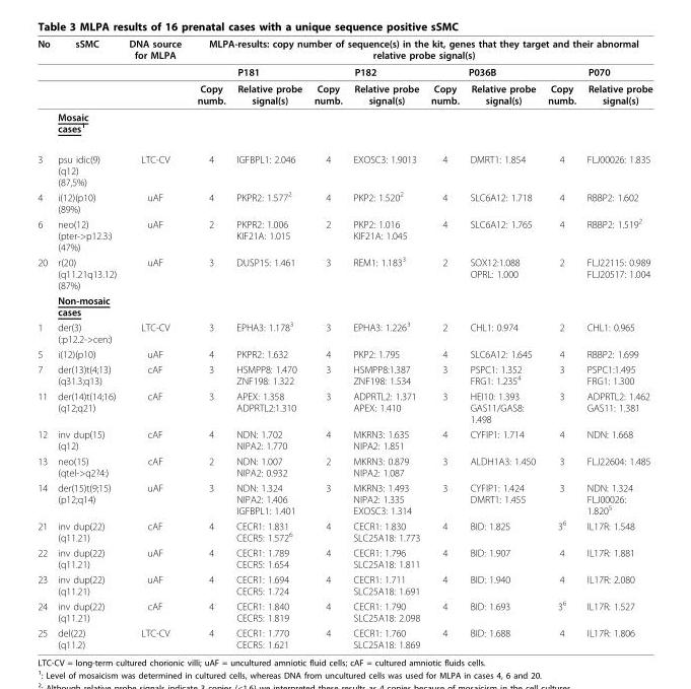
<table><thead><tr><td rowspan="3">No</td><td rowspan="3">sSMC</td><td rowspan="3">DNA source for MLPA</td><td colspan="8">MLPA-results: copy number of sequence(s) in the kit, genes that they target and their abnormal relative probe signal(s)</td></tr><tr><td colspan="2">P181</td><td colspan="2">P182</td><td colspan="2">P036B</td><td colspan="2">P070</td></tr><tr><td>Copy numb.</td><td>Relative probe signal(s)</td><td>Copy numb.</td><td>Relative probe signal(s)</td><td>Copy numb.</td><td>Relative probe signal(s)</td><td>Copy numb.</td><td>Relative probe signal(s)</td></tr></thead><tbody><tr><td></td><td>Mosaic cases<sup>1</sup></td><td></td><td></td><td></td><td></td><td></td><td></td><td></td><td></td><td></td></tr><tr><td>3</td><td>psu idic(9) (q12) (87,5%)</td><td>LTC-CV</td><td>4</td><td>IGFBPL1: 2.046</td><td>4</td><td>EXOSC3: 1.9013</td><td>4</td><td>DMRT1: 1.854</td><td>4</td><td>FLJ00026: 1.835</td></tr><tr><td>4</td><td>i(12)(p10) (89%)</td><td>uAF</td><td>4</td><td>PKPR2: 1.577<sup>2</sup></td><td>4</td><td>PKP2: 1.520<sup>2</sup></td><td>4</td><td>SLC6A12: 1.718</td><td>4</td><td>RBBP2: 1.602</td></tr><tr><td>6</td><td>neo(12) (pter-&gt;p12.3:) (47%)</td><td>uAF</td><td>2</td><td>PKPR2: 1.006 KIF21A: 1.015</td><td>2</td><td>PKP2: 1.016 KIF21A: 1.045</td><td>4</td><td>SLC6A12: 1.765</td><td>4</td><td>RBBP2: 1.519<sup>2</sup></td></tr><tr><td rowspan="2">20</td><td>r(20) (q11.21q13.12) (87%)</td><td>uAF</td><td>3</td><td>DUSP15: 1.461</td><td>3</td><td>REM1: 1.183<sup>3</sup></td><td>2</td><td>SOX12:1.088 OPRL: 1.000</td><td>2</td><td>FLJ22115: 0.989 FLJ20517: 1.004</td></tr><tr><td>Non-mosaic cases</td><td></td><td></td><td></td><td></td><td></td><td></td><td></td><td></td><td></td></tr><tr><td>1</td><td>der(3) (:p12.2-&gt;cen:)</td><td>LTC-CV</td><td>3</td><td>EPHA3: 1.178<sup>3</sup></td><td>3</td><td>EPHA3: 1.226<sup>3</sup></td><td>2</td><td>CHL1: 0.974</td><td>2</td><td>CHL1: 0.965</td></tr><tr><td>5</td><td>i(12)(p10)</td><td>uAF</td><td>4</td><td>PKPR2: 1.632</td><td>4</td><td>PKP2: 1.795</td><td>4</td><td>SLC6A12: 1.645</td><td>4</td><td>RBBP2: 1.699</td></tr><tr><td>7</td><td>der(13)t(4;13) (q31.3;q13)</td><td>cAF</td><td>3</td><td>HSMPP8: 1.470 ZNF198: 1.322</td><td>3</td><td>HSMPP8:1.387 ZNF198: 1.534</td><td>3</td><td>PSPC1: 1.352 FRG1: 1.235<sup>4</sup></td><td>3</td><td>PSPC1:1.495 FRG1: 1.300</td></tr><tr><td>11</td><td>der(14)t(14;16) (q12;q21)</td><td>cAF</td><td>3</td><td>APEX: 1.358 ADPRTL2:1.310</td><td>3</td><td>ADPRTL2: 1.371 APEX: 1.410</td><td>3</td><td>HEI10: 1.393 GAS11/GAS8: 1.498</td><td>3</td><td>ADPRTL2: 1.462 GAS11: 1.381</td></tr><tr><td>12</td><td>inv dup(15) (q12)</td><td>cAF</td><td>4</td><td>NDN: 1.702 NIPA2: 1.770</td><td>4</td><td>MKRN3: 1.635 NIPA2: 1.851</td><td>4</td><td>CYFIP1: 1.714</td><td>4</td><td>NDN: 1.668</td></tr><tr><td>13</td><td>neo(15) (qtel-&gt;q2?4:)</td><td>cAF</td><td>2</td><td>NDN: 1.007 NIPA2: 0.932</td><td>2</td><td>MKRN3: 0.879 NIPA2: 1.087</td><td>3</td><td>ALDH1A3: 1.450</td><td>3</td><td>FLJ22604: 1.485</td></tr><tr><td>14</td><td>der(15)t(9;15) (p12;q14)</td><td>uAF</td><td>3</td><td>NDN: 1.324 NIPA2: 1.406 IGFBPL1: 1.401</td><td>3</td><td>MKRN3: 1.493 NIPA2: 1.335 EXOSC3: 1.314</td><td>3</td><td>CYFIP1: 1.424 DMRT1: 1.455</td><td>3</td><td>NDN: 1.324 FLJ00026: 1.820<sup>5</sup></td></tr><tr><td>21</td><td>inv dup(22) (q11.21)</td><td>cAF</td><td>4</td><td>CECR1: 1.831 CECR5: 1.572<sup>6</sup></td><td>4</td><td>CECR1: 1.830 SLC25A18: 1.773</td><td>4</td><td>BID: 1.825</td><td>3<sup>6</sup></td><td>IL17R: 1.548</td></tr><tr><td>22</td><td>inv dup(22) (q11.21)</td><td>uAF</td><td>4</td><td>CECR1: 1.789 CECR5: 1.654</td><td>4</td><td>CECR1: 1.796 SLC25A18: 1.811</td><td>4</td><td>BID: 1.907</td><td>4</td><td>IL17R: 1.881</td></tr><tr><td>23</td><td>inv dup(22) (q11.21)</td><td>uAF</td><td>4</td><td>CECR1: 1.694 CECR5: 1.724</td><td>4</td><td>CECR1: 1.711 SLC25A18: 1.691</td><td>4</td><td>BID: 1.940</td><td>4</td><td>IL17R: 2.080</td></tr><tr><td>24</td><td>inv dup(22) (q11.21)</td><td>cAF</td><td>4</td><td>CECR1: 1.840 CECR5: 1.819</td><td>4</td><td>CECR1: 1.790 SLC25A18: 2.098</td><td>4</td><td>BID: 1.693</td><td>3<sup>6</sup></td><td>IL17R: 1.527</td></tr><tr><td>25</td><td>del(22) (q11.2)</td><td>LTC-CV</td><td>4</td><td>CECR1: 1.770 CECR5: 1.621</td><td>4</td><td>CECR1: 1.760 SLC25A18: 1.869</td><td>4</td><td>BID: 1.688</td><td>4</td><td>IL17R: 1.806</td></tr></tbody></table>